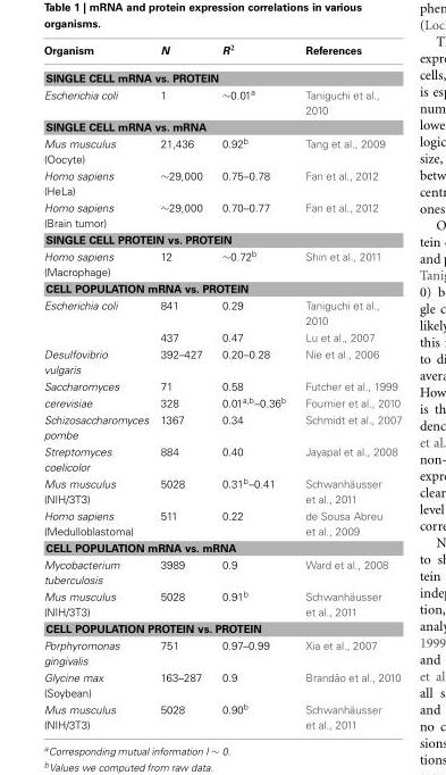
<table><thead><tr><td>Organism</td><td>N</td><td>R<sup>2</sup></td><td>References</td></tr></thead><tbody><tr><td colspan="4">SINGLE CELL mRNA vs. PROTEIN</td></tr><tr><td>Escherichia coli</td><td>1</td><td>∼0.01a</td><td>Taniguchi et al., 2010</td></tr><tr><td colspan="4">SINGLE CELL mRNA vs. mRNA</td></tr><tr><td>Mus musculus (Oocyte)</td><td>21,436</td><td>0.92<sup>b</sup></td><td>Tang et al., 2009</td></tr><tr><td>Homo sapiens (HeLa)</td><td>∼29,000</td><td>0.75–0.78</td><td>Fan et al., 2012</td></tr><tr><td>Homo sapiens (Brain tumor)</td><td>∼29,000</td><td>0.70–0.77</td><td>Fan et al., 2012</td></tr><tr><td colspan="4">SINGLE CELL PROTEIN vs. PROTEIN</td></tr><tr><td>Homo sapiens (Macrophage)</td><td>12</td><td>∼0.72b</td><td>Shin et al., 2011</td></tr><tr><td colspan="4">CELL POPULATION mRNA vs. PROTEIN</td></tr><tr><td rowspan="2">Escherichia coli</td><td>841</td><td>0.29</td><td>Taniguchi et al., 2010</td></tr><tr><td>437</td><td>0.47</td><td>Lu et al., 2007</td></tr><tr><td>Desulfovibrio vulgaris</td><td>392–427</td><td>0.20–0.28</td><td>Nie et al., 2006</td></tr><tr><td>Saccharomyces</td><td>71</td><td>0.58</td><td>Futcher et al., 1999</td></tr><tr><td>cerevisiae</td><td>328</td><td>0.01<sup>a,b</sup>–0.36<sup>b</sup></td><td>Fournier et al., 2010</td></tr><tr><td>Schizosaccharomyces pombe</td><td>1367</td><td>0.34</td><td>Schmidt et al., 2007</td></tr><tr><td>Streptomyces coelicolor</td><td>884</td><td>0.40</td><td>Jayapal et al., 2008</td></tr><tr><td>Mus musculus (NIH/3T3)</td><td>5028</td><td>0.31<sup>b</sup>–0.41</td><td>Schwanhäusser et al., 2011</td></tr><tr><td>Homo sapiens (Medulloblastoma)</td><td>511</td><td>0.22</td><td>de Sousa Abreu et al., 2009</td></tr><tr><td colspan="4">CELL POPULATION mRNA vs. mRNA</td></tr><tr><td>Mycobacterium tuberculosis</td><td>3989</td><td>0.9</td><td>Ward et al., 2008</td></tr><tr><td>Mus musculus (NIH/3T3)</td><td>5028</td><td>0.91<sup>b</sup></td><td>Schwanhäusser et al., 2011</td></tr><tr><td colspan="4">CELL POPULATION PROTEIN vs. PROTEIN</td></tr><tr><td>Porphyromonas gingivalis</td><td>751</td><td>0.97–0.99</td><td>Xia et al., 2007</td></tr><tr><td>Glycine max (Soybean)</td><td>163–287</td><td>0.9</td><td>Brandão et al., 2010</td></tr><tr><td>Mus musculus (NIH/3T3)</td><td>5028</td><td>0.90<sup>b</sup></td><td>Schwanhäusser et al., 2011</td></tr></tbody></table>